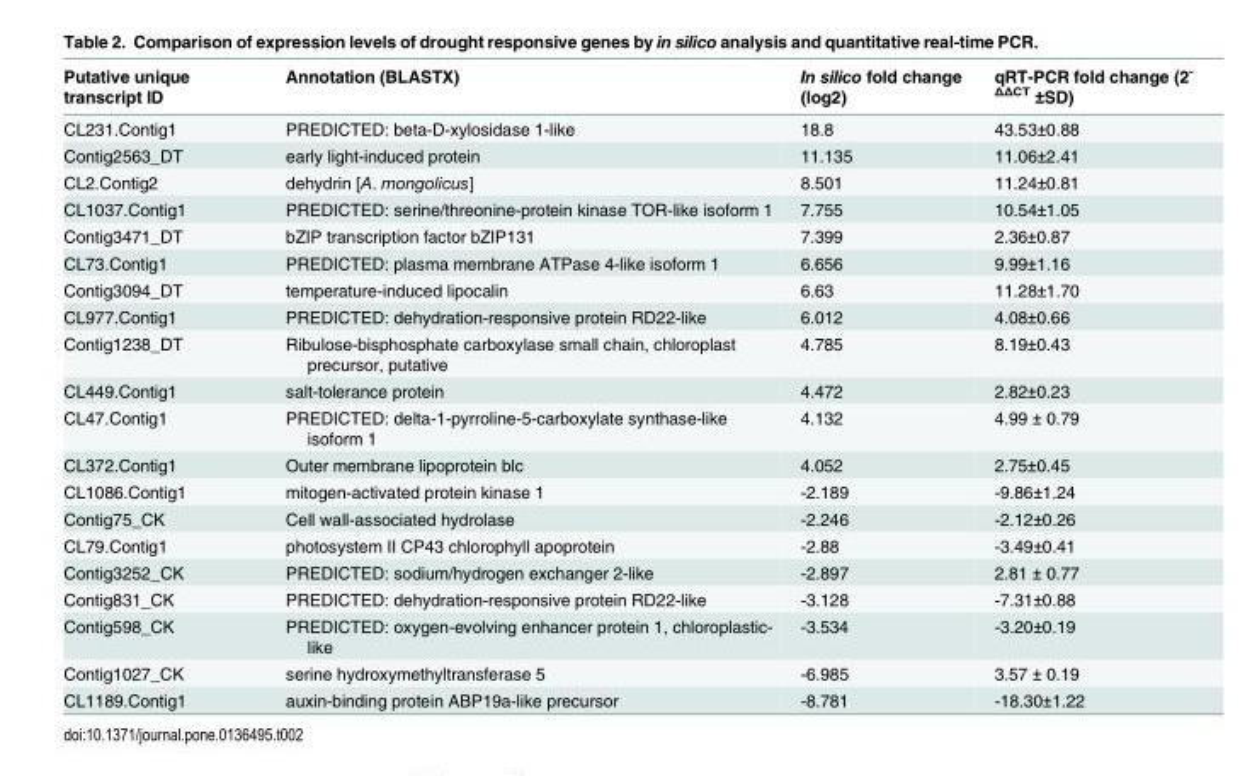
<table><thead><tr><td>Putative unique transcript ID</td><td>Annotation (BLASTX)</td><td>In silico fold change (log2)</td><td>qRT-PCR fold change (2<sup>- ΔΔCT</sup> ±SD)</td></tr></thead><tbody><tr><td>CL231.Contig1</td><td>PREDICTED: beta-D-xylosidase 1-like</td><td>18.8</td><td>43.53±0.88</td></tr><tr><td>Contig2563_DT</td><td>early light-induced protein</td><td>11.135</td><td>11.06±2.41</td></tr><tr><td>CL2.Contig2</td><td>dehydrin [A. mongolicus]</td><td>8.501</td><td>11.24±0.81</td></tr><tr><td>CL1037.Contig1</td><td>PREDICTED: serine/threonine-protein kinase TOR-like isoform 1</td><td>7.755</td><td>10.54±1.05</td></tr><tr><td>Contig3471_DT</td><td>bZIP transcription factor bZIP131</td><td>7.399</td><td>2.36±0.87</td></tr><tr><td>CL73.Contig1</td><td>PREDICTED: plasma membrane ATPase 4-like isoform 1</td><td>6.656</td><td>9.99±1.16</td></tr><tr><td>Contig3094_DT</td><td>temperature-induced lipocalin</td><td>6.63</td><td>11.28±1.70</td></tr><tr><td>CL977.Contig1</td><td>PREDICTED: dehydration-responsive protein RD22-like</td><td>6.012</td><td>4.08±0.66</td></tr><tr><td>Contig1238_DT</td><td>Ribulose-bisphosphate carboxylase small chain, chloroplast precursor, putative</td><td>4.785</td><td>8.19±0.43</td></tr><tr><td>CL449.Contig1</td><td>salt-tolerance protein</td><td>4.472</td><td>2.82±0.23</td></tr><tr><td>CL47.Contig1</td><td>PREDICTED: delta-1-pyrroline-5-carboxylate synthase-like isoform 1</td><td>4.132</td><td>4.99 ± 0.79</td></tr><tr><td>CL372.Contig1</td><td>Outer membrane lipoprotein blc</td><td>4.052</td><td>2.75±0.45</td></tr><tr><td>CL1086.Contig1</td><td>mitogen-activated protein kinase 1</td><td>-2.189</td><td>-9.86±1.24</td></tr><tr><td>Contig75_CK</td><td>Cell wall-associated hydrolase</td><td>-2.246</td><td>-2.12±0.26</td></tr><tr><td>CL79.Contig1</td><td>photosystem II CP43 chlorophyll apoprotein</td><td>-2.88</td><td>-3.49±0.41</td></tr><tr><td>Contig3252_CK</td><td>PREDICTED: sodium/hydrogen exchanger 2-like</td><td>-2.897</td><td>2.81 ± 0.77</td></tr><tr><td>Contig831_CK</td><td>PREDICTED: dehydration-responsive protein RD22-like</td><td>-3.128</td><td>-7.31±0.88</td></tr><tr><td>Contig598_CK</td><td>PREDICTED: oxygen-evolving enhancer protein 1, chloroplastic- like</td><td>-3.534</td><td>-3.20±0.19</td></tr><tr><td>Contig1027_CK</td><td>serine hydroxymethyltransferase 5</td><td>-6.985</td><td>3.57 ± 0.19</td></tr><tr><td>CL1189.Contig1</td><td>auxin-binding protein ABP19a-like precursor</td><td>-8.781</td><td>-18.30±1.22</td></tr></tbody></table>